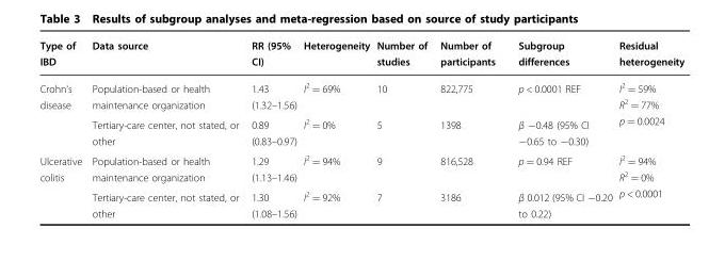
<table><thead><tr><td>Type of IBD</td><td>Data source</td><td>RR (95% CI)</td><td>Heterogeneity</td><td>Number of studies</td><td>Number of participants</td><td>Subgroup differences</td><td>Residual heterogeneity</td></tr></thead><tbody><tr><td rowspan="2">Crohn’s disease</td><td>Population-based or health maintenance organization</td><td>1.43 (1.32–1.56)</td><td>I<sup>2</sup> = 69%</td><td>10</td><td>822,775</td><td>p &lt; 0.0001 REF</td><td rowspan="2">I<sup>2</sup> = 59% R<sup>2</sup> = 77% p = 0.0024</td></tr><tr><td>Tertiary-care center, not stated, or other</td><td>0.89 (0.83–0.97)</td><td>I<sup>2</sup> = 0%</td><td>5</td><td>1398</td><td>β −0.48 (95% CI −0.65 to −0.30)</td></tr><tr><td rowspan="2">Ulcerative colitis</td><td>Population-based or health maintenance organization</td><td>1.29 (1.13–1.46)</td><td>I<sup>2</sup> = 94%</td><td>9</td><td>816,528</td><td>p = 0.94 REF</td><td rowspan="2">I<sup>2</sup> = 94% R<sup>2</sup> = 0% p &lt; 0.0001</td></tr><tr><td>Tertiary-care center, not stated, or other</td><td>1.30 (1.08–1.56)</td><td>I<sup>2</sup> = 92%</td><td>7</td><td>3186</td><td>β 0.012 (95% CI −0.20 to 0.22)</td></tr></tbody></table>